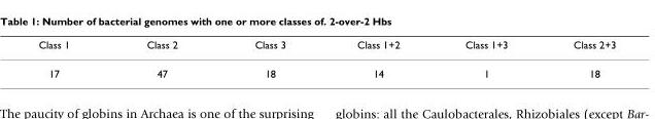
<table><thead><tr><td>Class 1</td><td>Class 2</td><td>Class 3</td><td>Class 1+2</td><td>Class 1+3</td><td>Class 2+3</td></tr></thead><tbody><tr><td>17</td><td>47</td><td>18</td><td>14</td><td>1</td><td>18</td></tr></tbody></table>